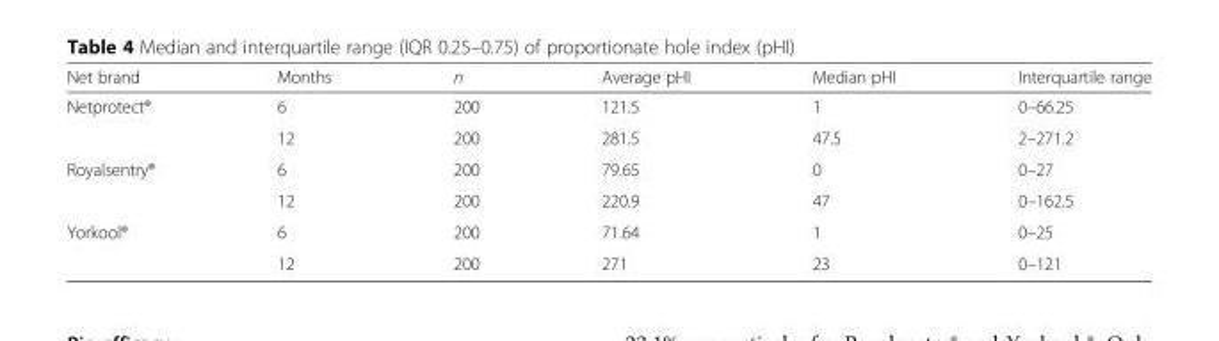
<table><thead><tr><td>Net brand</td><td>Months</td><td>n</td><td>Average pHI</td><td>Median pHI</td><td>Interquartile range</td></tr></thead><tbody><tr><td rowspan="2">Netprotect®</td><td>6</td><td>200</td><td>121.5</td><td>1</td><td>0–66.25</td></tr><tr><td>12</td><td>200</td><td>281.5</td><td>47.5</td><td>2–271.2</td></tr><tr><td rowspan="2">Royalsentry®</td><td>6</td><td>200</td><td>79.65</td><td>0</td><td>0–27</td></tr><tr><td>12</td><td>200</td><td>220.9</td><td>47</td><td>0–162.5</td></tr><tr><td rowspan="2">Yorkool®</td><td>6</td><td>200</td><td>71.64</td><td>1</td><td>0–25</td></tr><tr><td>12</td><td>200</td><td>271</td><td>23</td><td>0–121</td></tr></tbody></table>